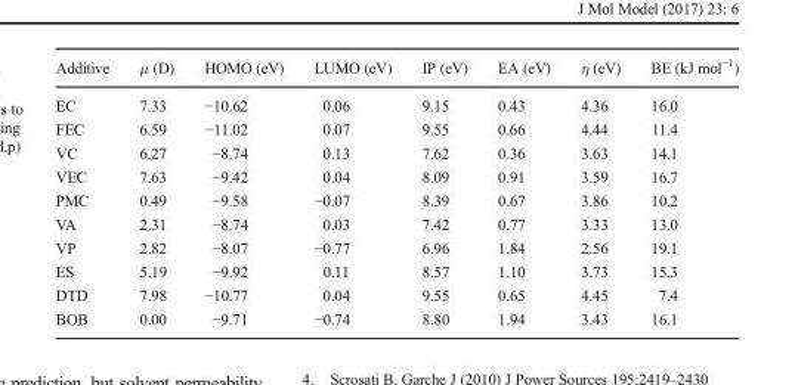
<table><thead><tr><td>Additive</td><td>μ (D)</td><td>HOMO (eV)</td><td>LUMO (eV)</td><td>IP (eV)</td><td>EA (eV)</td><td>η (eV)</td><td>BE (kJ mol<sup>−1</sup>)</td></tr></thead><tbody><tr><td>EC</td><td>7.33</td><td>−10.62</td><td>0.06</td><td>9.15</td><td>0.43</td><td>4.36</td><td>16.0</td></tr><tr><td>FEC</td><td>6.59</td><td>−11.02</td><td>0.07</td><td>9.55</td><td>0.66</td><td>4.44</td><td>11.4</td></tr><tr><td>VC</td><td>6.27</td><td>−8.74</td><td>0.13</td><td>7.62</td><td>0.36</td><td>3.63</td><td>14.1</td></tr><tr><td>VEC</td><td>7.63</td><td>−9.42</td><td>0.04</td><td>8.09</td><td>0.91</td><td>3.59</td><td>16.7</td></tr><tr><td>PMC</td><td>0.49</td><td>−9.58</td><td>−0.07</td><td>8.39</td><td>0.67</td><td>3.86</td><td>10.2</td></tr><tr><td>VA</td><td>2.31</td><td>−8.74</td><td>0.03</td><td>7.42</td><td>0.77</td><td>3.33</td><td>13.0</td></tr><tr><td>VP</td><td>2.82</td><td>−8.07</td><td>−0.77</td><td>6.96</td><td>1.84</td><td>2.56</td><td>19.1</td></tr><tr><td>ES</td><td>5.19</td><td>−9.92</td><td>0.11</td><td>8.57</td><td>1.10</td><td>3.73</td><td>15.3</td></tr><tr><td>DTD</td><td>7.98</td><td>−10.77</td><td>0.04</td><td>9.55</td><td>0.65</td><td>4.45</td><td>7.4</td></tr><tr><td>BOB</td><td>0.00</td><td>−9.71</td><td>−0.74</td><td>8.80</td><td>1.94</td><td>3.43</td><td>16.1</td></tr></tbody></table>